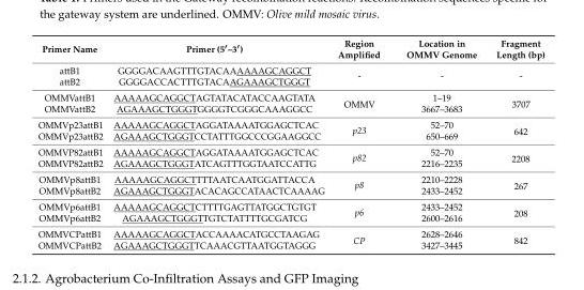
<table><thead><tr><td>Primer Name</td><td>Primer (5′–3′)</td><td>Region Amplified</td><td>Location in OMMV Genome</td><td>Fragment Length (bp)</td></tr></thead><tbody><tr><td>attB1</td><td>GGGGACAAGTTTGTACAAAAAAGCAGGCT</td><td rowspan="2">-</td><td rowspan="2">-</td><td rowspan="2">-</td></tr><tr><td>attB2</td><td>GGGGACCACTTTGTACAAGAAAGCTGGGT</td></tr><tr><td>OMMVattB1</td><td>AAAAAGCAGGCTAGTATACATACCAAGTATA</td><td rowspan="2">OMMV</td><td>1–19</td><td rowspan="2">3707</td></tr><tr><td>OMMVattB2</td><td>AGAAAGCTGGGTGGGGTCGGGCAAAGGCC</td><td>3667–3683</td></tr><tr><td>OMMVp23attB1</td><td>AAAAAGCAGGCTAGGATAAAATGGAGCTCAC</td><td rowspan="2">p23</td><td>52–70</td><td rowspan="2">642</td></tr><tr><td>OMMVp23attB2</td><td>AGAAAGCTGGGTCCTATTTGGCCCGGAAGGCC</td><td>650–669</td></tr><tr><td>OMMVP82attB1</td><td>AAAAAGCAGGCTAGGATAAAATGGAGCTCAC</td><td rowspan="2">p82</td><td>52–70</td><td rowspan="2">2208</td></tr><tr><td>OMMVP82attB2</td><td>AGAAAGCTGGGTATCAGTTTGGTAATCCATTG</td><td>2216–2235</td></tr><tr><td>OMMVp8attB1</td><td>AAAAAGCAGGCTTTTAATCAATGGATTACCA</td><td rowspan="2">p8</td><td>2210–2228</td><td rowspan="2">267</td></tr><tr><td>OMMVp8attB2</td><td>AGAAAGCTGGGTACACAGCCATAACTCAAAAG</td><td>2433–2452</td></tr><tr><td>OMMVp6attB1</td><td>AAAAAGCAGGCTCTTTTGAGTTATGGCTGTGT</td><td rowspan="2">p6</td><td>2433–2452</td><td rowspan="2">208</td></tr><tr><td>OMMVp6attB2</td><td>AGAAAGCTGGGTTGTCTATTTTGCGATCG</td><td>2600–2616</td></tr><tr><td>OMMVCPattB1</td><td>AAAAAGCAGGCTACCAAAACATGCCTAAGAG</td><td rowspan="2">CP</td><td>2628–2646</td><td rowspan="2">842</td></tr><tr><td>OMMVCPattB2</td><td>AGAAAGCTGGGTTCAAACGTTAATGGTAGGG</td><td>3427–3445</td></tr></tbody></table>